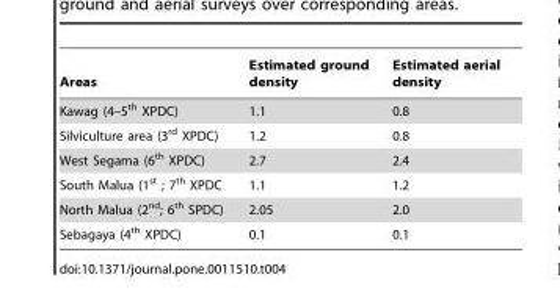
<table><thead><tr><td>Areas</td><td>Estimated ground density</td><td>Estimated aerial density</td></tr></thead><tbody><tr><td>Kawag (4–5<sup>th</sup> XPDC)</td><td>1.1</td><td>0.8</td></tr><tr><td>Silviculture area (3<sup>rd</sup> XPDC)</td><td>1.2</td><td>0.8</td></tr><tr><td>West Segama (6<sup>th</sup> XPDC)</td><td>2.7</td><td>2.4</td></tr><tr><td>South Malua (1<sup>st</sup> ; 7<sup>th</sup> XPDC</td><td>1.1</td><td>1.2</td></tr><tr><td>North Malua (2<sup>nd</sup>; 6<sup>th</sup> SPDC)</td><td>2.05</td><td>2.0</td></tr><tr><td>Sebagaya (4<sup>th</sup> XPDC)</td><td>0.1</td><td>0.1</td></tr></tbody></table>